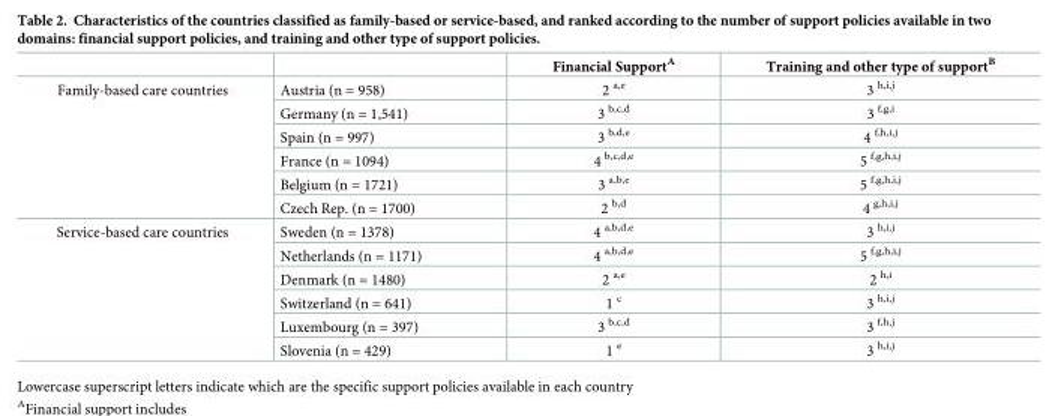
<table><thead><tr><td></td><td></td><td>Financial Support<sup>A</sup></td><td>Training and other type of support<sup>B</sup></td></tr></thead><tbody><tr><td rowspan="6">Family-based care countries</td><td>Austria (n = 958)</td><td>2 <sup>a,e</sup></td><td>3 <sup>h,i,j</sup></td></tr><tr><td>Germany (n = 1,541)</td><td>3 <sup>b,c,d</sup></td><td>3 <sup>f,g,i</sup></td></tr><tr><td>Spain (n = 997)</td><td>3 <sup>b,d,e</sup></td><td>4 <sup>f,h,i,j</sup></td></tr><tr><td>France (n = 1094)</td><td>4 <sup>b,c,d,e</sup></td><td>5 <sup>f,g,h,i,j</sup></td></tr><tr><td>Belgium (n = 1721)</td><td>3 <sup>a,b,e</sup></td><td>5 <sup>f,g,h,i,j</sup></td></tr><tr><td>Czech Rep. (n = 1700)</td><td>2 <sup>b,d</sup></td><td>4 <sup>g,h,i,j</sup></td></tr><tr><td rowspan="6">Service-based care countries</td><td>Sweden (n = 1378)</td><td>4 <sup>a,b,d,e</sup></td><td>3 <sup>h,i,j</sup></td></tr><tr><td>Netherlands (n = 1171)</td><td>4 <sup>a,b,d,e</sup></td><td>5 <sup>f,g,h,i,j</sup></td></tr><tr><td>Denmark (n = 1480)</td><td>2 <sup>a,e</sup></td><td>2 <sup>h,i</sup></td></tr><tr><td>Switzerland (n = 641)</td><td>1 <sup>c</sup></td><td>3 <sup>h,i,j</sup></td></tr><tr><td>Luxembourg (n = 397)</td><td>3 <sup>b,c,d</sup></td><td>3 <sup>f,h,j</sup></td></tr><tr><td>Slovenia (n = 429)</td><td>1 <sup>e</sup></td><td>3 <sup>h,i,j</sup></td></tr></tbody></table>